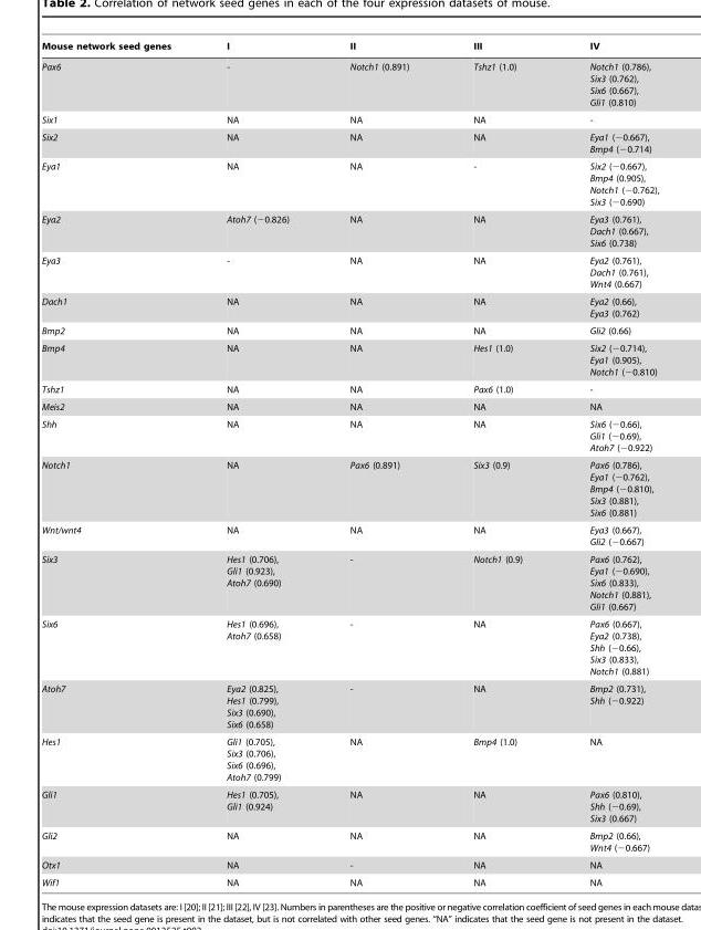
<table><thead><tr><td>Mouse network seed genes</td><td>I</td><td>II</td><td>III</td><td>IV</td></tr></thead><tbody><tr><td>Pax6</td><td>-</td><td>Notch1 (0.891)</td><td>Tshz1 (1.0)</td><td>Notch1 (0.786), Six3 (0.762), Six6 (0.667), Gli1 (0.810)</td></tr><tr><td>Six1</td><td>NA</td><td>NA</td><td>NA</td><td>-</td></tr><tr><td>Six2</td><td>NA</td><td>NA</td><td>NA</td><td>Eya1 (−0.667), Bmp4 (−0.714)</td></tr><tr><td>Eya1</td><td>NA</td><td>NA</td><td>-</td><td>Six2 (−0.667), Bmp4 (0.905), Notch1 (−0.762), Six3 (−0.690)</td></tr><tr><td>Eya2</td><td>Atoh7 (−0.826)</td><td>NA</td><td>NA</td><td>Eya3 (0.761), Dach1 (0.667), Six6 (0.738)</td></tr><tr><td>Eya3</td><td>-</td><td>NA</td><td>NA</td><td>Eya2 (0.761), Dach1 (0.761), Wnt4 (0.667)</td></tr><tr><td>Dach1</td><td>NA</td><td>NA</td><td>NA</td><td>Eya2 (0.66), Eya3 (0.762)</td></tr><tr><td>Bmp2</td><td>NA</td><td>NA</td><td>NA</td><td>Gli2 (0.66)</td></tr><tr><td>Bmp4</td><td>NA</td><td>NA</td><td>Hes1 (1.0)</td><td>Six2 (−0.714), Eya1 (0.905), Notch1 (−0.810)</td></tr><tr><td>Tshz1</td><td>NA</td><td>NA</td><td>Pax6 (1.0)</td><td>-</td></tr><tr><td>Meis2</td><td>NA</td><td>NA</td><td>NA</td><td>NA</td></tr><tr><td>Shh</td><td>NA</td><td>NA</td><td>NA</td><td>Six6 (−0.66), Gli1 (−0.69), Atoh7 (−0.922)</td></tr><tr><td>Notch1</td><td>NA</td><td>Pax6 (0.891)</td><td>Six3 (0.9)</td><td>Pax6 (0.786), Eya1 (−0.762), Bmp4 (−0.810), Six3 (0.881), Six6 (0.881)</td></tr><tr><td>Wnt/wnt4</td><td>NA</td><td>NA</td><td>NA</td><td>Eya3 (0.667), Gli2 (−0.667)</td></tr><tr><td>Six3</td><td>Hes1 (0.706), Gli1 (0.923), Atoh7 (0.690)</td><td>-</td><td>Notch1 (0.9)</td><td>Pax6 (0.762), Eya1 (−0.690), Six6 (0.833), Notch1 (0.881), Gli1 (0.667)</td></tr><tr><td>Six6</td><td>Hes1 (0.696), Atoh7 (0.658)</td><td>-</td><td>NA</td><td>Pax6 (0.667), Eya2 (0.738), Shh (−0.66), Six3 (0.833), Notch1 (0.881)</td></tr><tr><td>Atoh7</td><td>Eya2 (0.825), Hes1 (0.799), Six3 (0.690), Six6 (0.658)</td><td>-</td><td>NA</td><td>Bmp2 (0.731), Shh (−0.922)</td></tr><tr><td>Hes1</td><td>Gli1 (0.705), Six3 (0.706), Six6 (0.696), Atoh7 (0.799)</td><td>NA</td><td>Bmp4 (1.0)</td><td>NA</td></tr><tr><td>Gli1</td><td>Hes1 (0.705), Gli1 (0.924)</td><td>NA</td><td>NA</td><td>Pax6 (0.810), Shh (−0.69), Six3 (0.667)</td></tr><tr><td>Gli2</td><td>NA</td><td>NA</td><td>NA</td><td>Bmp2 (0.66), Wnt4 (−0.667)</td></tr><tr><td>Otx1</td><td>NA</td><td>-</td><td>NA</td><td>NA</td></tr><tr><td>Wif1</td><td>NA</td><td>NA</td><td>NA</td><td>NA</td></tr></tbody></table>